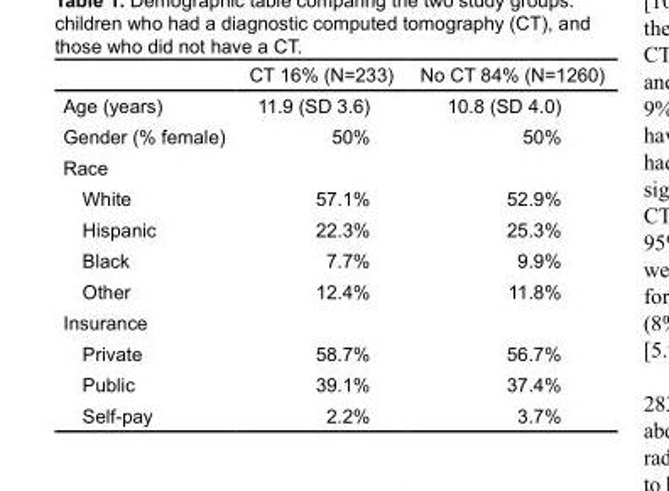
<table><thead><tr><td></td><td>CT 16% (N=233)</td><td>No CT 84% (N=1260)</td></tr></thead><tbody><tr><td>Age (years)</td><td>11.9 (SD 3.6)</td><td>10.8 (SD 4.0)</td></tr><tr><td>Gender (% female)</td><td>50%</td><td>50%</td></tr><tr><td colspan="3">Race</td></tr><tr><td>White</td><td>57.1%</td><td>52.9%</td></tr><tr><td>Hispanic</td><td>22.3%</td><td>25.3%</td></tr><tr><td>Black</td><td>7.7%</td><td>9.9%</td></tr><tr><td>Other</td><td>12.4%</td><td>11.8%</td></tr><tr><td colspan="3">Insurance</td></tr><tr><td>Private</td><td>58.7%</td><td>56.7%</td></tr><tr><td>Public</td><td>39.1%</td><td>37.4%</td></tr><tr><td>Self-pay</td><td>2.2%</td><td>3.7%</td></tr></tbody></table>